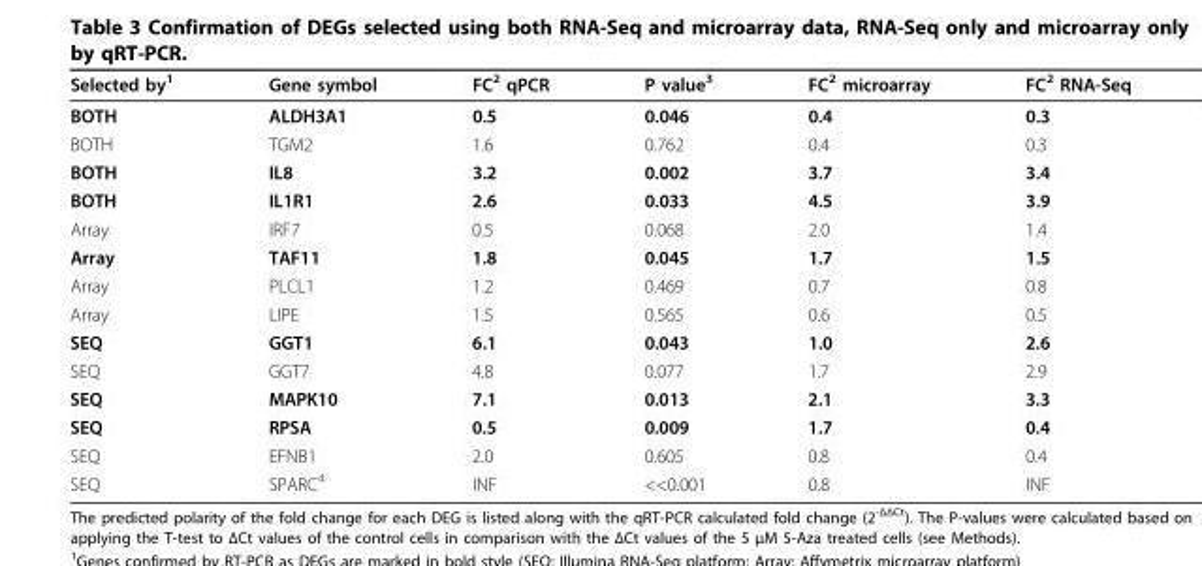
<table><thead><tr><td>Selected by<sup>1</sup></td><td>Gene symbol</td><td>FC<sup>2</sup> qPCR</td><td>P value<sup>3</sup></td><td>FC<sup>2</sup> microarray</td><td>FC<sup>2</sup> RNA-Seq</td></tr></thead><tbody><tr><td>BOTH</td><td>ALDH3A1</td><td>0.5</td><td>0.046</td><td>0.4</td><td>0.3</td></tr><tr><td>BOTH</td><td>TGM2</td><td>1.6</td><td>0.762</td><td>0.4</td><td>0.3</td></tr><tr><td>BOTH</td><td>IL8</td><td>3.2</td><td>0.002</td><td>3.7</td><td>3.4</td></tr><tr><td>BOTH</td><td>IL1R1</td><td>2.6</td><td>0.033</td><td>4.5</td><td>3.9</td></tr><tr><td>Array</td><td>IRF7</td><td>0.5</td><td>0.068</td><td>2.0</td><td>1.4</td></tr><tr><td>Array</td><td>TAF11</td><td>1.8</td><td>0.045</td><td>1.7</td><td>1.5</td></tr><tr><td>Array</td><td>PLCL1</td><td>1.2</td><td>0.469</td><td>0.7</td><td>0.8</td></tr><tr><td>Array</td><td>LIPE</td><td>1.5</td><td>0.565</td><td>0.6</td><td>0.5</td></tr><tr><td>SEQ</td><td>GGT1</td><td>6.1</td><td>0.043</td><td>1.0</td><td>2.6</td></tr><tr><td>SEQ</td><td>GGT7</td><td>4.8</td><td>0.077</td><td>1.7</td><td>2.9</td></tr><tr><td>SEQ</td><td>MAPK10</td><td>7.1</td><td>0.013</td><td>2.1</td><td>3.3</td></tr><tr><td>SEQ</td><td>RPSA</td><td>0.5</td><td>0.009</td><td>1.7</td><td>0.4</td></tr><tr><td>SEQ</td><td>EFNB1</td><td>2.0</td><td>0.605</td><td>0.8</td><td>0.4</td></tr><tr><td>SEQ</td><td>SPARC<sup>4</sup></td><td>INF</td><td>&lt;&lt;0.001</td><td>0.8</td><td>INF</td></tr></tbody></table>